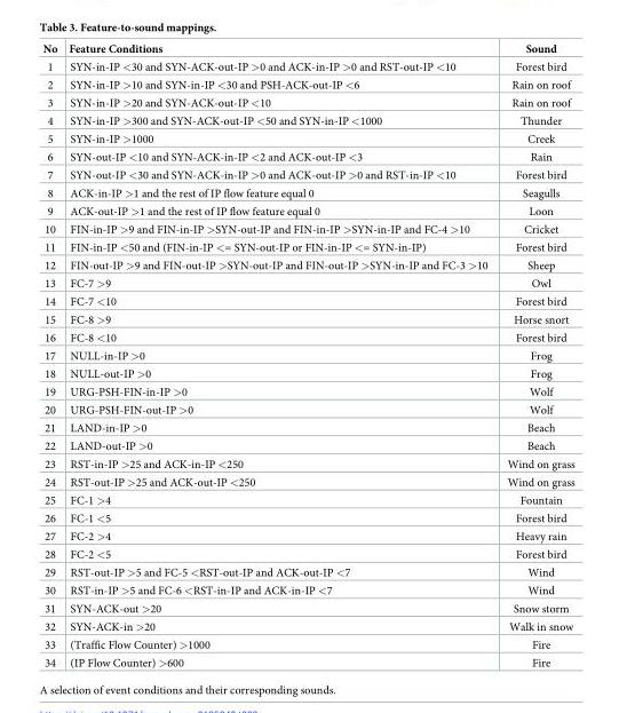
<table><thead><tr><td>No</td><td>Feature Conditions</td><td>Sound</td></tr></thead><tbody><tr><td>1</td><td>SYN-in-IP &lt;30 and SYN-ACK-out-IP &gt;0 and ACK-in-IP &gt;0 and RST-out-IP &lt;10</td><td>Forest bird</td></tr><tr><td>2</td><td>SYN-in-IP &gt;10 and SYN-in-IP &lt;30 and PSH-ACK-out-IP &lt;6</td><td>Rain on roof</td></tr><tr><td>3</td><td>SYN-in-IP &gt;20 and SYN-ACK-out-IP &lt;10</td><td>Rain on roof</td></tr><tr><td>4</td><td>SYN-in-IP &gt;300 and SYN-ACK-out-IP &lt;50 and SYN-in-IP &lt;1000</td><td>Thunder</td></tr><tr><td>5</td><td>SYN-in-IP &gt;1000</td><td>Creek</td></tr><tr><td>6</td><td>SYN-out-IP &lt;10 and SYN-ACK-in-IP &lt;2 and ACK-out-IP &lt;3</td><td>Rain</td></tr><tr><td>7</td><td>SYN-out-IP &lt;30 and SYN-ACK-in-IP &gt;0 and ACK-out-IP &gt;0 and RST-in-IP &lt;10</td><td>Forest bird</td></tr><tr><td>8</td><td>ACK-in-IP &gt;1 and the rest of IP flow feature equal 0</td><td>Seagulls</td></tr><tr><td>9</td><td>ACK-out-IP &gt;1 and the rest of IP flow feature equal 0</td><td>Loon</td></tr><tr><td>10</td><td>FIN-in-IP &gt;9 and FIN-in-IP &gt;SYN-out-IP and FIN-in-IP &gt;SYN-in-IP and FC-4 &gt;10</td><td>Cricket</td></tr><tr><td>11</td><td>FIN-in-IP &lt;50 and (FIN-in-IP &lt;= SYN-out-IP or FIN-in-IP &lt;= SYN-in-IP)</td><td>Forest bird</td></tr><tr><td>12</td><td>FIN-out-IP &gt;9 and FIN-out-IP &gt;SYN-out-IP and FIN-out-IP &gt;SYN-in-IP and FC-3 &gt;10</td><td>Sheep</td></tr><tr><td>13</td><td>FC-7 &gt;9</td><td>Owl</td></tr><tr><td>14</td><td>FC-7 &lt;10</td><td>Forest bird</td></tr><tr><td>15</td><td>FC-8 &gt;9</td><td>Horse snort</td></tr><tr><td>16</td><td>FC-8 &lt;10</td><td>Forest bird</td></tr><tr><td>17</td><td>NULL-in-IP &gt;0</td><td>Frog</td></tr><tr><td>18</td><td>NULL-out-IP &gt;0</td><td>Frog</td></tr><tr><td>19</td><td>URG-PSH-FIN-in-IP &gt;0</td><td>Wolf</td></tr><tr><td>20</td><td>URG-PSH-FIN-out-IP &gt;0</td><td>Wolf</td></tr><tr><td>21</td><td>LAND-in-IP &gt;0</td><td>Beach</td></tr><tr><td>22</td><td>LAND-out-IP &gt;0</td><td>Beach</td></tr><tr><td>23</td><td>RST-in-IP &gt;25 and ACK-in-IP &lt;250</td><td>Wind on grass</td></tr><tr><td>24</td><td>RST-out-IP &gt;25 and ACK-out-IP &lt;250</td><td>Wind on grass</td></tr><tr><td>25</td><td>FC-1 &gt;4</td><td>Fountain</td></tr><tr><td>26</td><td>FC-1 &lt;5</td><td>Forest bird</td></tr><tr><td>27</td><td>FC-2 &gt;4</td><td>Heavy rain</td></tr><tr><td>28</td><td>FC-2 &lt;5</td><td>Forest bird</td></tr><tr><td>29</td><td>RST-out-IP &gt;5 and FC-5 &lt;RST-out-IP and ACK-out-IP &lt;7</td><td>Wind</td></tr><tr><td>30</td><td>RST-in-IP &gt;5 and FC-6 &lt;RST-in-IP and ACK-in-IP &lt;7</td><td>Wind</td></tr><tr><td>31</td><td>SYN-ACK-out &gt;20</td><td>Snow storm</td></tr><tr><td>32</td><td>SYN-ACK-in &gt;20</td><td>Walk in snow</td></tr><tr><td>33</td><td>(Traffic Flow Counter) &gt;1000</td><td>Fire</td></tr><tr><td>34</td><td>(IP Flow Counter) &gt;600</td><td>Fire</td></tr></tbody></table>